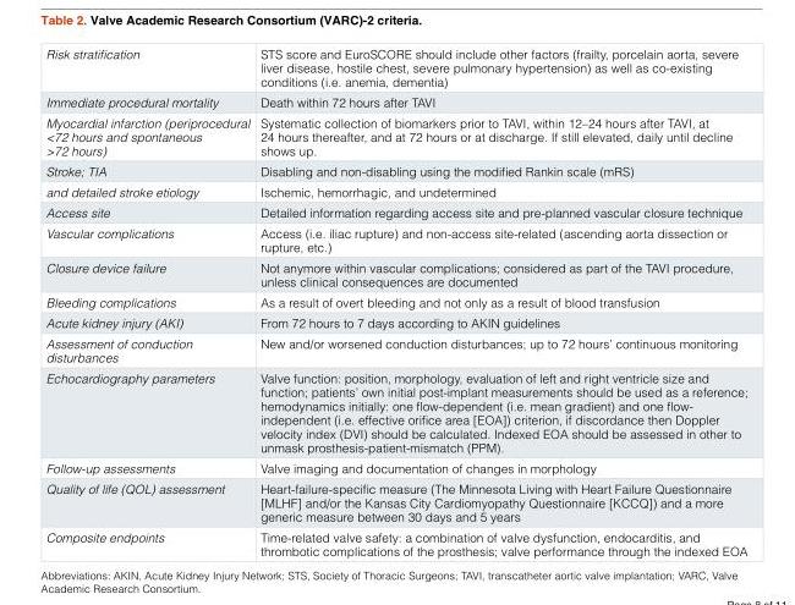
<table><tbody><tr><td>Risk stratification</td><td>STS score and EuroSCORE should include other factors (frailty, porcelain aorta, severe liver disease, hostile chest, severe pulmonary hypertension) as well as co-existing conditions (i.e. anemia, dementia)</td></tr><tr><td>Immediate procedural mortality</td><td>Death within 72 hours after TAVI</td></tr><tr><td>Myocardial infarction (periprocedural &lt;72 hours and spontaneous &gt;72 hours)</td><td>Systematic collection of biomarkers prior to TAVI, within 12–24 hours after TAVI, at 24 hours thereafter, and at 72 hours or at discharge. If still elevated, daily until decline shows up.</td></tr><tr><td>Stroke; TIA</td><td>Disabling and non-disabling using the modified Rankin scale (mRS)</td></tr><tr><td>and detailed stroke etiology</td><td>Ischemic, hemorrhagic, and undetermined</td></tr><tr><td>Access site</td><td>Detailed information regarding access site and pre-planned vascular closure technique</td></tr><tr><td>Vascular complications</td><td>Access (i.e. iliac rupture) and non-access site-related (ascending aorta dissection or rupture, etc.)</td></tr><tr><td>Closure device failure</td><td>Not anymore within vascular complications; considered as part of the TAVI procedure, unless clinical consequences are documented</td></tr><tr><td>Bleeding complications</td><td>As a result of overt bleeding and not only as a result of blood transfusion</td></tr><tr><td>Acute kidney injury (AKI)</td><td>From 72 hours to 7 days according to AKIN guidelines</td></tr><tr><td>Assessment of conduction disturbances</td><td>New and/or worsened conduction disturbances; up to 72 hours’ continuous monitoring</td></tr><tr><td>Echocardiography parameters</td><td>Valve function: position, morphology, evaluation of left and right ventricle size and function; patients’ own initial post-implant measurements should be used as a reference; hemodynamics initially: one flow-dependent (i.e. mean gradient) and one flow- independent (i.e. effective orifice area [EOA]) criterion, if discordance then Doppler velocity index (DVI) should be calculated. Indexed EOA should be assessed in other to unmask prosthesis-patient-mismatch (PPM).</td></tr><tr><td>Follow-up assessments</td><td>Valve imaging and documentation of changes in morphology</td></tr><tr><td>Quality of life (QOL) assessment</td><td>Heart-failure-specific measure (The Minnesota Living with Heart Failure Questionnaire [MLHF] and/or the Kansas City Cardiomyopathy Questionnaire [KCCQ]) and a more generic measure between 30 days and 5 years</td></tr><tr><td>Composite endpoints</td><td>Time-related valve safety: a combination of valve dysfunction, endocarditis, and thrombotic complications of the prosthesis; valve performance through the indexed EOA</td></tr></tbody></table>